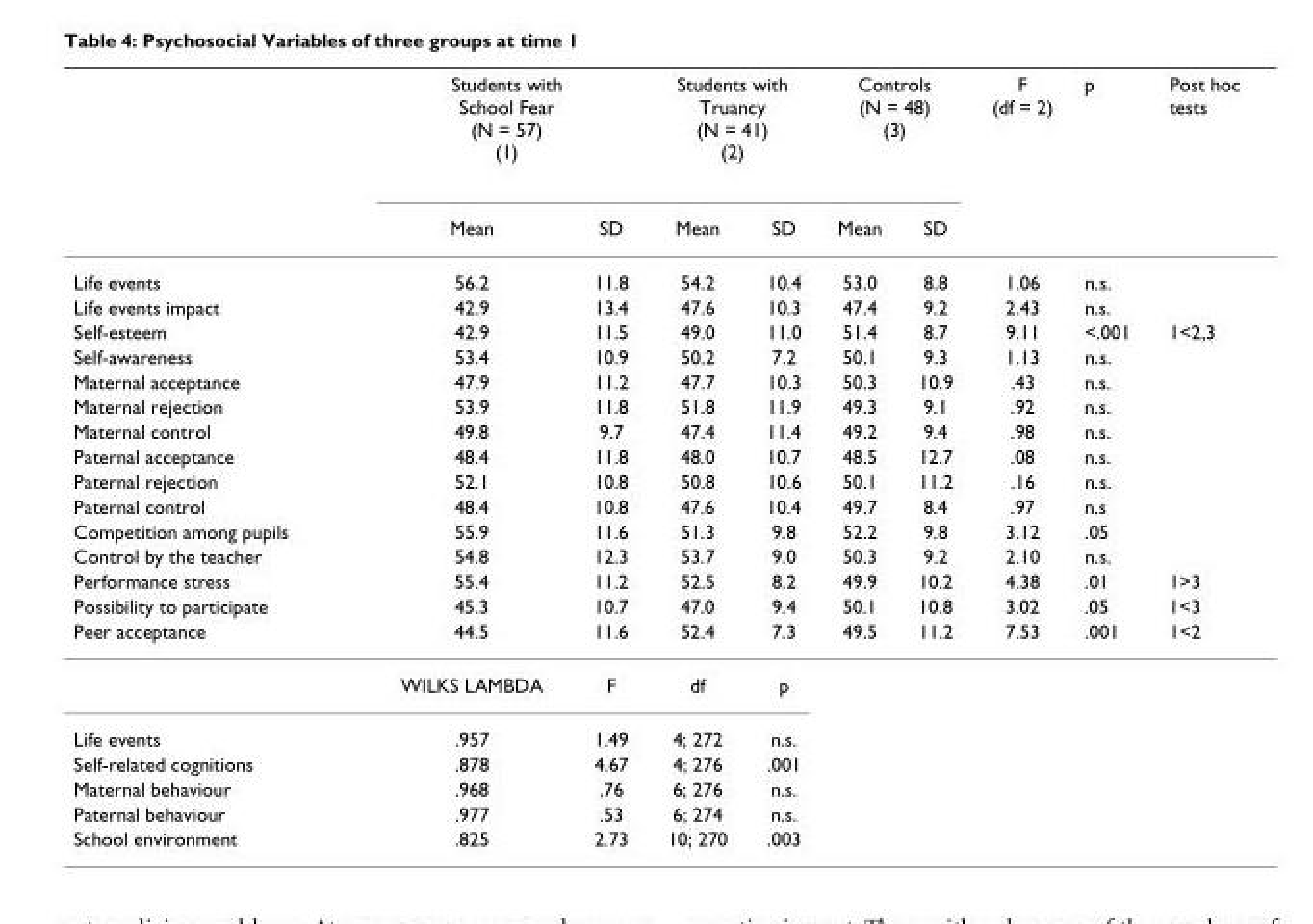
<table><thead><tr><td rowspan="2"></td><td colspan="2">Students with School Fear (N = 57) (1)</td><td colspan="2">Students with Truancy (N = 41) (2)</td><td colspan="2">Controls (N = 48) (3)</td><td rowspan="2">F (df = 2)</td><td rowspan="2">p</td><td rowspan="2">Post hoc tests</td></tr><tr><td>Mean</td><td>SD</td><td>Mean</td><td>SD</td><td>Mean</td><td>SD</td></tr></thead><tbody><tr><td>Life events</td><td>56.2</td><td>11.8</td><td>54.2</td><td>10.4</td><td>53.0</td><td>8.8</td><td>1.06</td><td>n.s.</td><td></td></tr><tr><td>Life events impact</td><td>42.9</td><td>13.4</td><td>47.6</td><td>10.3</td><td>47.4</td><td>9.2</td><td>2.43</td><td>n.s.</td><td></td></tr><tr><td>Self-esteem</td><td>42.9</td><td>11.5</td><td>49.0</td><td>11.0</td><td>51.4</td><td>8.7</td><td>9.11</td><td>&lt;.001</td><td>1&lt;2,3</td></tr><tr><td>Self-awareness</td><td>53.4</td><td>10.9</td><td>50.2</td><td>7.2</td><td>50.1</td><td>9.3</td><td>1.13</td><td>n.s.</td><td></td></tr><tr><td>Maternal acceptance</td><td>47.9</td><td>11.2</td><td>47.7</td><td>10.3</td><td>50.3</td><td>10.9</td><td>.43</td><td>n.s.</td><td></td></tr><tr><td>Maternal rejection</td><td>53.9</td><td>11.8</td><td>51.8</td><td>11.9</td><td>49.3</td><td>9.1</td><td>.92</td><td>n.s.</td><td></td></tr><tr><td>Maternal control</td><td>49.8</td><td>9.7</td><td>47.4</td><td>11.4</td><td>49.2</td><td>9.4</td><td>.98</td><td>n.s.</td><td></td></tr><tr><td>Paternal acceptance</td><td>48.4</td><td>11.8</td><td>48.0</td><td>10.7</td><td>48.5</td><td>12.7</td><td>.08</td><td>n.s.</td><td></td></tr><tr><td>Paternal rejection</td><td>52.1</td><td>10.8</td><td>50.8</td><td>10.6</td><td>50.1</td><td>11.2</td><td>.16</td><td>n.s.</td><td></td></tr><tr><td>Paternal control</td><td>48.4</td><td>10.8</td><td>47.6</td><td>10.4</td><td>49.7</td><td>8.4</td><td>.97</td><td>n.s</td><td></td></tr><tr><td>Competition among pupils</td><td>55.9</td><td>11.6</td><td>51.3</td><td>9.8</td><td>52.2</td><td>9.8</td><td>3.12</td><td>.05</td><td></td></tr><tr><td>Control by the teacher</td><td>54.8</td><td>12.3</td><td>53.7</td><td>9.0</td><td>50.3</td><td>9.2</td><td>2.10</td><td>n.s.</td><td></td></tr><tr><td>Performance stress</td><td>55.4</td><td>11.2</td><td>52.5</td><td>8.2</td><td>49.9</td><td>10.2</td><td>4.38</td><td>.01</td><td>1&gt;3</td></tr><tr><td>Possibility to participate</td><td>45.3</td><td>10.7</td><td>47.0</td><td>9.4</td><td>50.1</td><td>10.8</td><td>3.02</td><td>.05</td><td>1&lt;3</td></tr><tr><td rowspan="2">Peer acceptance</td><td>44.5</td><td>11.6</td><td>52.4</td><td>7.3</td><td>49.5</td><td>11.2</td><td>7.53</td><td>.001</td><td>1&lt;2</td></tr><tr><td>WILKS LAMBDA</td><td>F</td><td>df</td><td>p</td><td></td><td></td><td></td><td></td><td></td></tr><tr><td>Life events</td><td>.957</td><td>1.49</td><td>4; 272</td><td>n.s.</td><td></td><td></td><td></td><td></td><td></td></tr><tr><td>Self-related cognitions</td><td>.878</td><td>4.67</td><td>4; 276</td><td>.001</td><td></td><td></td><td></td><td></td><td></td></tr><tr><td>Maternal behaviour</td><td>.968</td><td>.76</td><td>6; 276</td><td>n.s.</td><td></td><td></td><td></td><td></td><td></td></tr><tr><td>Paternal behaviour</td><td>.977</td><td>.53</td><td>6; 274</td><td>n.s.</td><td></td><td></td><td></td><td></td><td></td></tr><tr><td>School environment</td><td>.825</td><td>2.73</td><td>10; 270</td><td>.003</td><td></td><td></td><td></td><td></td><td></td></tr></tbody></table>